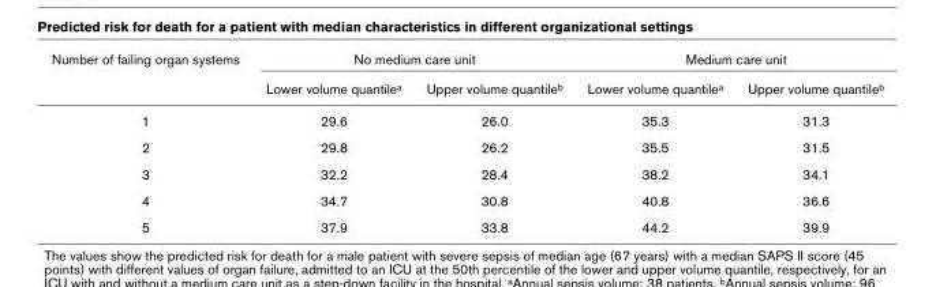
<table><thead><tr><td rowspan="2">Number of failing organ systems</td><td colspan="2">No medium care unit</td><td colspan="2">Medium care unit</td></tr><tr><td>Lower volume quantile<sup>a</sup></td><td>Upper volume quantile<sup>b</sup></td><td>Lower volume quantile<sup>a</sup></td><td>Upper volume quantile<sup>b</sup></td></tr></thead><tbody><tr><td>1</td><td>29.6</td><td>26.0</td><td>35.3</td><td>31.3</td></tr><tr><td>2</td><td>29.8</td><td>26.2</td><td>35.5</td><td>31.5</td></tr><tr><td>3</td><td>32.2</td><td>28.4</td><td>38.2</td><td>34.1</td></tr><tr><td>4</td><td>34.7</td><td>30.8</td><td>40.8</td><td>36.6</td></tr><tr><td>5</td><td>37.9</td><td>33.8</td><td>44.2</td><td>39.9</td></tr></tbody></table>